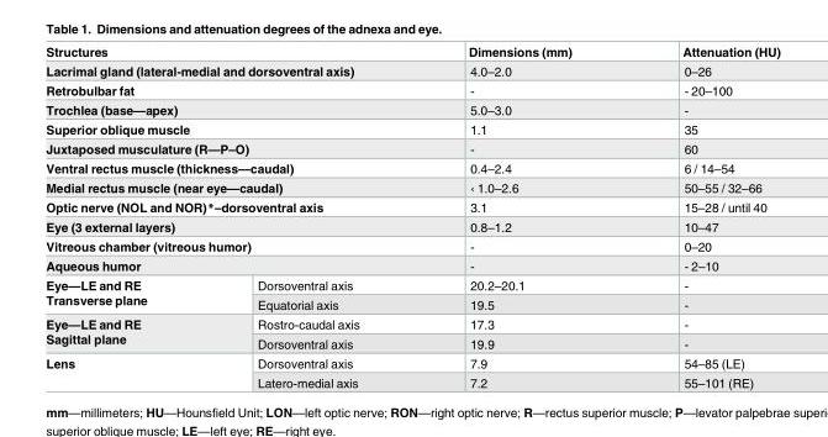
<table><thead><tr><td colspan="2">Structures</td><td>Dimensions (mm)</td><td>Attenuation (HU)</td></tr></thead><tbody><tr><td colspan="2">Lacrimal gland (lateral-medial and dorsoventral axis)</td><td>4.0–2.0</td><td>0–26</td></tr><tr><td colspan="2">Retrobulbar fat</td><td>-</td><td>- 20–100</td></tr><tr><td colspan="2">Trochlea (base—apex)</td><td>5.0–3.0</td><td>-</td></tr><tr><td colspan="2">Superior oblique muscle</td><td>1.1</td><td>35</td></tr><tr><td colspan="2">Juxtaposed musculature (R—P–O)</td><td>-</td><td>60</td></tr><tr><td colspan="2">Ventral rectus muscle (thickness—caudal)</td><td>0.4–2.4</td><td>6 / 14–54</td></tr><tr><td colspan="2">Medial rectus muscle (near eye—caudal)</td><td>‹ 1.0–2.6</td><td>50–55 / 32–66</td></tr><tr><td colspan="2">Optic nerve (NOL and NOR)*–dorsoventral axis</td><td>3.1</td><td>15–28 / until 40</td></tr><tr><td colspan="2">Eye (3 external layers)</td><td>0.8–1.2</td><td>10–47</td></tr><tr><td colspan="2">Vitreous chamber (vitreous humor)</td><td>-</td><td>0–20</td></tr><tr><td colspan="2">Aqueous humor</td><td>-</td><td>- 2–10</td></tr><tr><td rowspan="2">Eye—LE and RE Transverse plane</td><td>Dorsoventral axis</td><td>20.2–20.1</td><td>-</td></tr><tr><td>Equatorial axis</td><td>19.5</td><td>-</td></tr><tr><td rowspan="2">Eye—LE and RE Sagittal plane</td><td>Rostro-caudal axis</td><td>17.3</td><td>-</td></tr><tr><td>Dorsoventral axis</td><td>19.9</td><td>-</td></tr><tr><td rowspan="2">Lens</td><td>Dorsoventral axis</td><td>7.9</td><td>54–85 (LE)</td></tr><tr><td>Latero-medial axis</td><td>7.2</td><td>55–101 (RE)</td></tr></tbody></table>